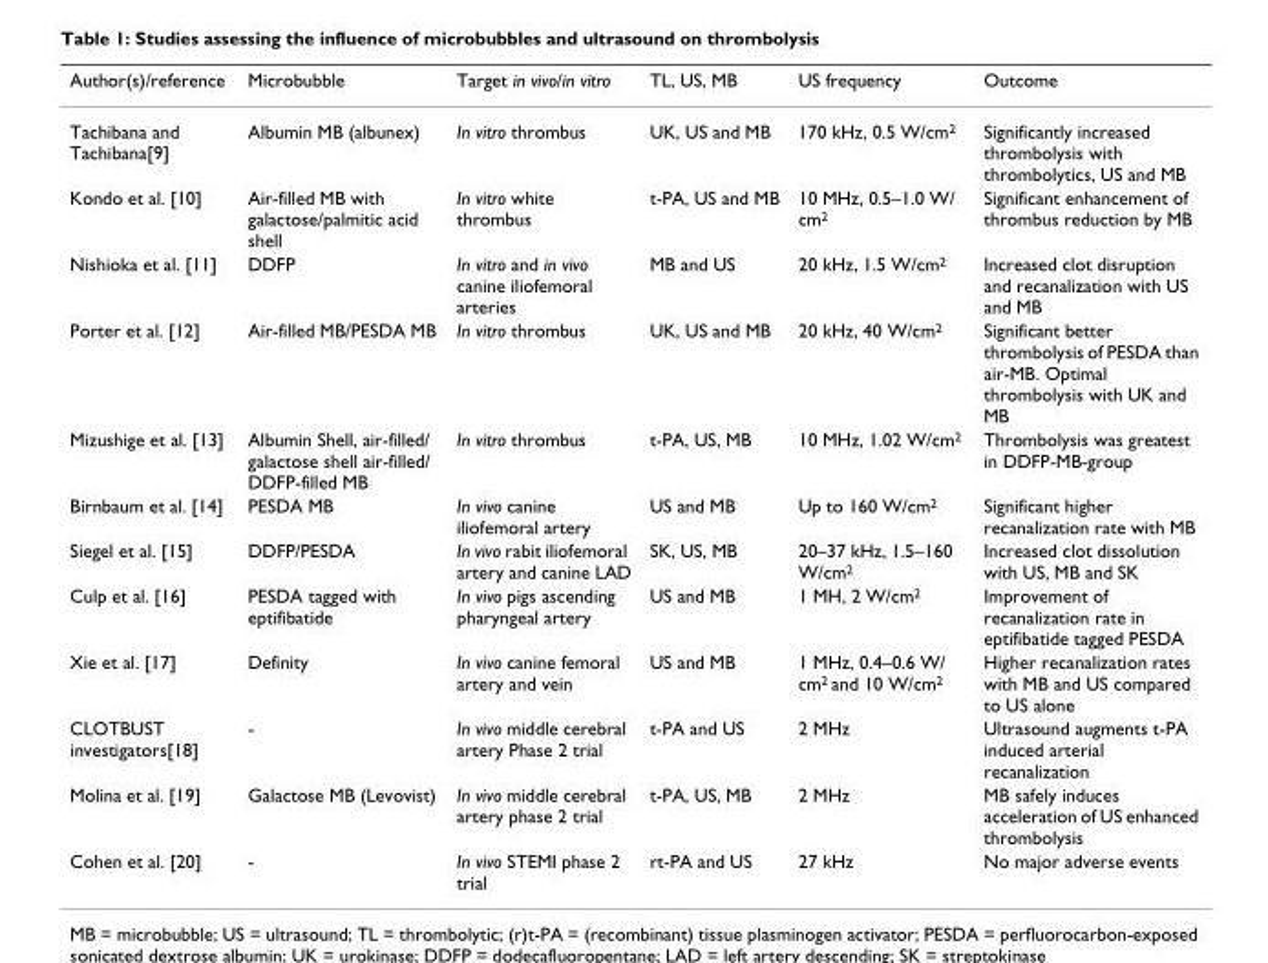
<table><thead><tr><td>Author(s)/reference</td><td>Microbubble</td><td>Target in vivo/in vitro</td><td>TL, US, MB</td><td>US frequency</td><td>Outcome</td></tr></thead><tbody><tr><td>Tachibana and Tachibana[9]</td><td>Albumin MB (albunex)</td><td>In vitro thrombus</td><td>UK, US and MB</td><td>170 kHz, 0.5 W/cm<sup>2</sup></td><td>Significantly increased thrombolysis with thrombolytics, US and MB</td></tr><tr><td>Kondo et al. [10]</td><td>Air-filled MB with galactose/palmitic acid shell</td><td>In vitro white thrombus</td><td>t-PA, US and MB</td><td>10 MHz, 0.5–1.0 W/ cm<sup>2</sup></td><td>Significant enhancement of thrombus reduction by MB</td></tr><tr><td>Nishioka et al. [11]</td><td>DDFP</td><td>In vitro and in vivo canine iliofemoral arteries</td><td>MB and US</td><td>20 kHz, 1.5 W/cm<sup>2</sup></td><td>Increased clot disruption and recanalization with US and MB</td></tr><tr><td>Porter et al. [12]</td><td>Air-filled MB/PESDA MB</td><td>In vitro thrombus</td><td>UK, US and MB</td><td>20 kHz, 40 W/cm<sup>2</sup></td><td>Significant better thrombolysis of PESDA than air-MB. Optimal thrombolysis with UK and MB</td></tr><tr><td>Mizushige et al. [13]</td><td>Albumin Shell, air-filled/ galactose shell air-filled/ DDFP-filled MB</td><td>In vitro thrombus</td><td>t-PA, US, MB</td><td>10 MHz, 1.02 W/cm<sup>2</sup></td><td>Thrombolysis was greatest in DDFP-MB-group</td></tr><tr><td>Birnbaum et al. [14]</td><td>PESDA MB</td><td>In vivo canine iliofemoral artery</td><td>US and MB</td><td>Up to 160 W/cm<sup>2</sup></td><td>Significant higher recanalization rate with MB</td></tr><tr><td>Siegel et al. [15]</td><td>DDFP/PESDA</td><td>In vivo rabit iliofemoral artery and canine LAD</td><td>SK, US, MB</td><td>20–37 kHz, 1.5–160 W/cm<sup>2</sup></td><td>Increased clot dissolution with US, MB and SK</td></tr><tr><td>Culp et al. [16]</td><td>PESDA tagged with eptifibatide</td><td>In vivo pigs ascending pharyngeal artery</td><td>US and MB</td><td>1 MH, 2 W/cm<sup>2</sup></td><td>Improvement of recanalization rate in eptifibatide tagged PESDA</td></tr><tr><td>Xie et al. [17]</td><td>Definity</td><td>In vivo canine femoral artery and vein</td><td>US and MB</td><td>1 MHz, 0.4–0.6 W/ cm<sup>2</sup> and 10 W/cm<sup>2</sup></td><td>Higher recanalization rates with MB and US compared to US alone</td></tr><tr><td>CLOTBUST investigators[18]</td><td>-</td><td>In vivo middle cerebral artery Phase 2 trial</td><td>t-PA and US</td><td>2 MHz</td><td>Ultrasound augments t-PA induced arterial recanalization</td></tr><tr><td>Molina et al. [19]</td><td>Galactose MB (Levovist)</td><td>In vivo middle cerebral artery phase 2 trial</td><td>t-PA, US, MB</td><td>2 MHz</td><td>MB safely induces acceleration of US enhanced thrombolysis</td></tr><tr><td>Cohen et al. [20]</td><td>-</td><td>In vivo STEMI phase 2 trial</td><td>rt-PA and US</td><td>27 kHz</td><td>No major adverse events</td></tr></tbody></table>